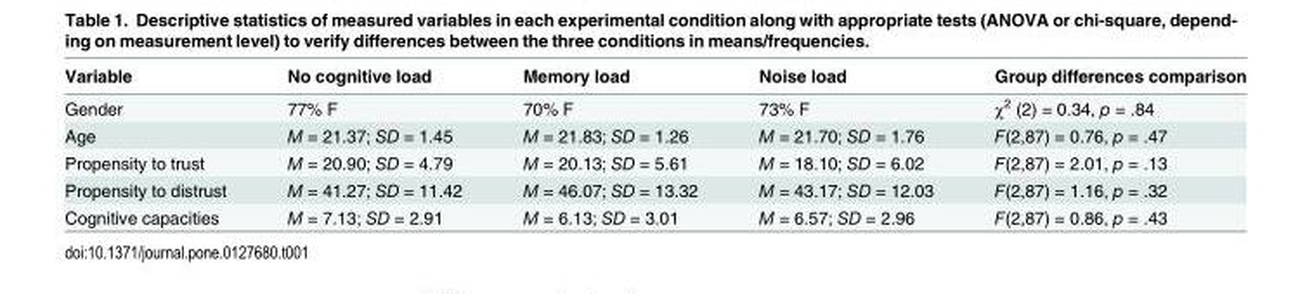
<table><thead><tr><td>Variable</td><td>No cognitive load</td><td>Memory load</td><td>Noise load</td><td>Group differences comparison</td></tr></thead><tbody><tr><td>Gender</td><td>77% F</td><td>70% F</td><td>73% F</td><td>χ<sup>2</sup> (2) = 0.34, p = .84</td></tr><tr><td>Age</td><td>M = 21.37; SD = 1.45</td><td>M = 21.83; SD = 1.26</td><td>M = 21.70; SD = 1.76</td><td>F(2,87) = 0.76, p = .47</td></tr><tr><td>Propensity to trust</td><td>M = 20.90; SD = 4.79</td><td>M = 20.13; SD = 5.61</td><td>M = 18.10; SD = 6.02</td><td>F(2,87) = 2.01, p = .13</td></tr><tr><td>Propensity to distrust</td><td>M = 41.27; SD = 11.42</td><td>M = 46.07; SD = 13.32</td><td>M = 43.17; SD = 12.03</td><td>F(2,87) = 1.16, p = .32</td></tr><tr><td>Cognitive capacities</td><td>M = 7.13; SD = 2.91</td><td>M = 6.13; SD = 3.01</td><td>M = 6.57; SD = 2.96</td><td>F(2,87) = 0.86, p = .43</td></tr></tbody></table>